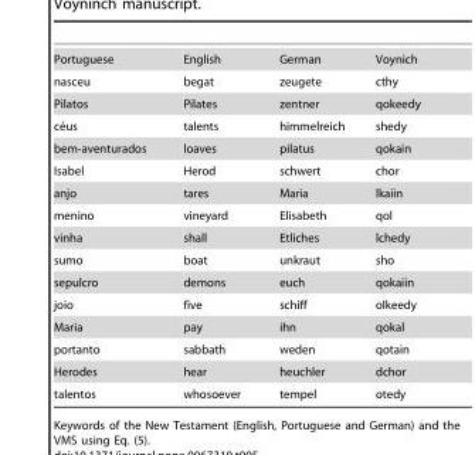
<table><tbody><tr><td>Portuguese</td><td>English</td><td>German</td><td>Voynich</td></tr><tr><td>nasceu</td><td>begat</td><td>zeugete</td><td>cthy</td></tr><tr><td>Pilatos</td><td>Pilates</td><td>zentner</td><td>qokeedy</td></tr><tr><td>ce´us</td><td>talents</td><td>himmelreich</td><td>shedy</td></tr><tr><td>bem-aventurados</td><td>loaves</td><td>pilatus</td><td>qokain</td></tr><tr><td>Isabel</td><td>Herod</td><td>schwert</td><td>chor</td></tr><tr><td>anjo</td><td>tares</td><td>Maria</td><td>lkaiin</td></tr><tr><td>menino</td><td>vineyard</td><td>Elisabeth</td><td>qol</td></tr><tr><td>vinha</td><td>shall</td><td>Etliches</td><td>lchedy</td></tr><tr><td>sumo</td><td>boat</td><td>unkraut</td><td>sho</td></tr><tr><td>sepulcro</td><td>demons</td><td>euch</td><td>qokaiin</td></tr><tr><td>joio</td><td>five</td><td>schiff</td><td>olkeedy</td></tr><tr><td>Maria</td><td>pay</td><td>ihn</td><td>qokal</td></tr><tr><td>portanto</td><td>sabbath</td><td>weden</td><td>qotain</td></tr><tr><td>Herodes</td><td>hear</td><td>heuchler</td><td>dchor</td></tr><tr><td>talentos</td><td>whosoever</td><td>tempel</td><td>otedy</td></tr></tbody></table>